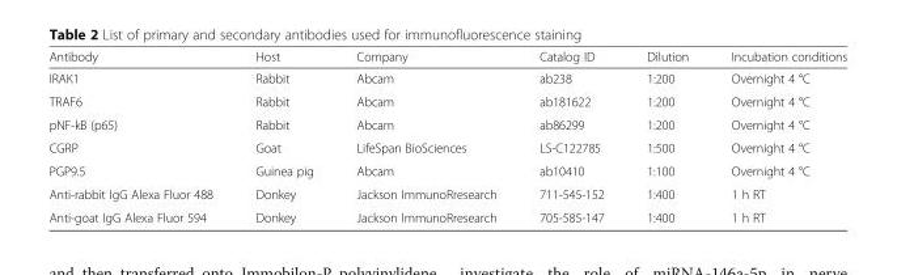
<table><thead><tr><td>Antibody</td><td>Host</td><td>Company</td><td>Catalog ID</td><td>Dilution</td><td>Incubation conditions</td></tr></thead><tbody><tr><td>IRAK1</td><td>Rabbit</td><td>Abcam</td><td>ab238</td><td>1:200</td><td>Overnight 4 °C</td></tr><tr><td>TRAF6</td><td>Rabbit</td><td>Abcam</td><td>ab181622</td><td>1:200</td><td>Overnight 4 °C</td></tr><tr><td>pNF-kB (p65)</td><td>Rabbit</td><td>Abcam</td><td>ab86299</td><td>1:200</td><td>Overnight 4 °C</td></tr><tr><td>CGRP</td><td>Goat</td><td>LifeSpan BioSciences</td><td>LS-C122785</td><td>1:500</td><td>Overnight 4 °C</td></tr><tr><td>PGP9.5</td><td>Guinea pig</td><td>Abcam</td><td>ab10410</td><td>1:100</td><td>Overnight 4 °C</td></tr><tr><td>Anti-rabbit IgG Alexa Fluor 488</td><td>Donkey</td><td>Jackson ImmunoRresearch</td><td>711-545-152</td><td>1:400</td><td>1 h RT</td></tr><tr><td>Anti-goat IgG Alexa Fluor 594</td><td>Donkey</td><td>Jackson ImmunoRresearch</td><td>705-585-147</td><td>1:400</td><td>1 h RT</td></tr></tbody></table>